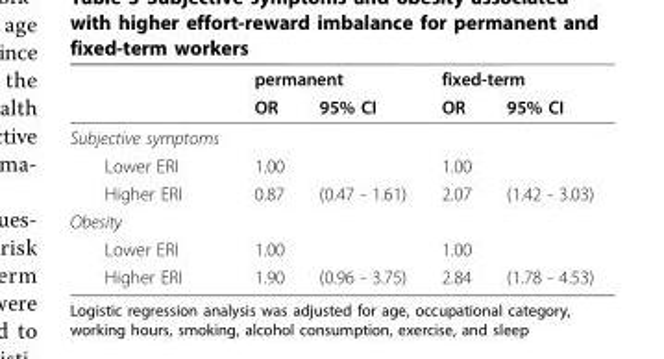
<table><thead><tr><td rowspan="2"></td><td colspan="2">permanent</td><td colspan="2">fixed-term</td></tr><tr><td>OR</td><td>95% CI</td><td>OR</td><td>95% CI</td></tr></thead><tbody><tr><td colspan="5">Subjective symptoms</td></tr><tr><td>Lower ERI</td><td>1.00</td><td></td><td>1.00</td><td></td></tr><tr><td>Higher ERI</td><td>0.87</td><td>(0.47 - 1.61)</td><td>2.07</td><td>(1.42 - 3.03)</td></tr><tr><td colspan="5">Obesity</td></tr><tr><td>Lower ERI</td><td>1.00</td><td></td><td>1.00</td><td></td></tr><tr><td>Higher ERI</td><td>1.90</td><td>(0.96 - 3.75)</td><td>2.84</td><td>(1.78 - 4.53)</td></tr></tbody></table>